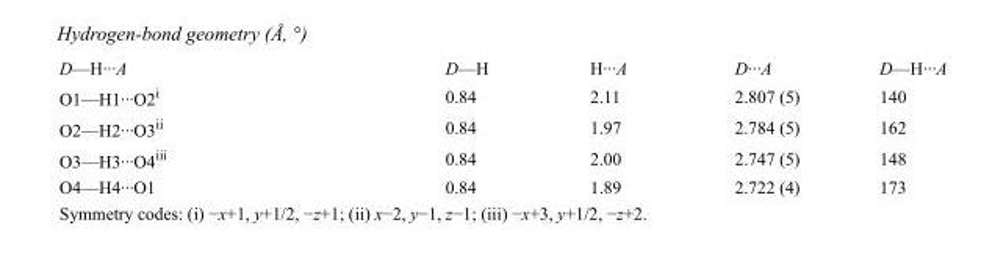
<table><tbody><tr><td>D—H···A</td><td>D—H</td><td>H···A</td><td>D···A</td><td>D—H···A</td></tr><tr><td>O1—H1···O2<sup>i</sup></td><td>0.84</td><td>2.11</td><td>2.807 (5)</td><td>140</td></tr><tr><td>O2—H2···O3<sup>ii</sup></td><td>0.84</td><td>1.97</td><td>2.784 (5)</td><td>162</td></tr><tr><td>O3—H3···O4<sup>iii</sup></td><td>0.84</td><td>2.00</td><td>2.747 (5)</td><td>148</td></tr><tr><td>O4—H4···O1</td><td>0.84</td><td>1.89</td><td>2.722 (4)</td><td>173</td></tr></tbody></table>